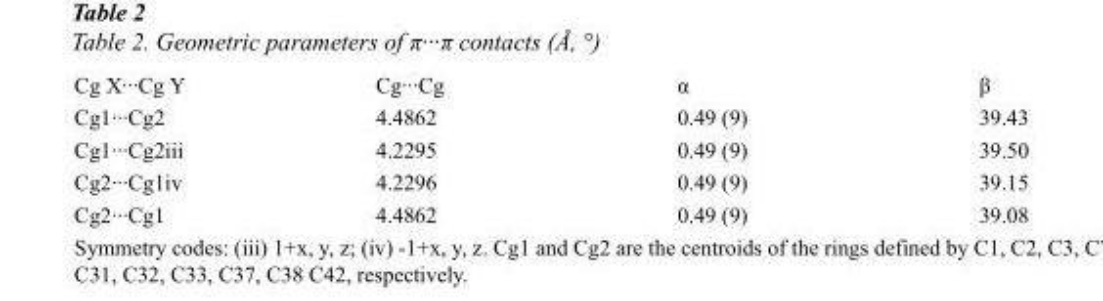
<table><tbody><tr><td>Cg X···Cg Y</td><td>Cg···Cg</td><td>α</td><td>β</td></tr><tr><td>Cg1···Cg2</td><td>4.4862</td><td>0.49 (9)</td><td>39.43</td></tr><tr><td>Cg1···Cg2iii</td><td>4.2295</td><td>0.49 (9)</td><td>39.50</td></tr><tr><td>Cg2···Cg1iv</td><td>4.2296</td><td>0.49 (9)</td><td>39.15</td></tr><tr><td>Cg2···Cg1</td><td>4.4862</td><td>0.49 (9)</td><td>39.08</td></tr></tbody></table>